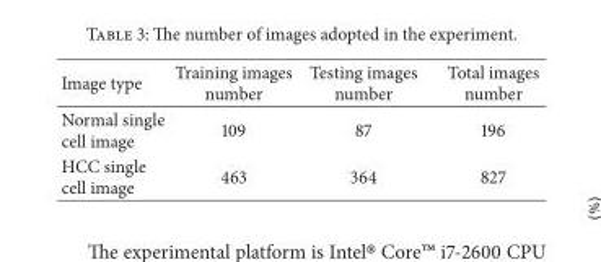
<table><thead><tr><td>Image type</td><td>Training images number</td><td>Testing images number</td><td>Total images number</td></tr></thead><tbody><tr><td>Normal single cell image</td><td>109</td><td>87</td><td>196</td></tr><tr><td>HCC single cell image</td><td>463</td><td>364</td><td>827</td></tr></tbody></table>